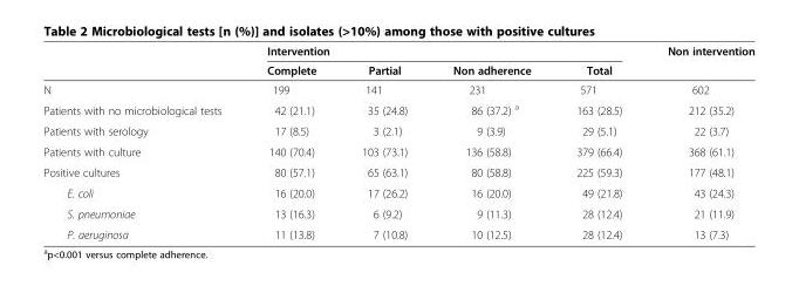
<table><thead><tr><td rowspan="2"></td><td colspan="4">Intervention</td><td rowspan="2">Non intervention</td></tr><tr><td>Complete</td><td>Partial</td><td>Non adherence</td><td>Total</td></tr></thead><tbody><tr><td>N</td><td>199</td><td>141</td><td>231</td><td>571</td><td>602</td></tr><tr><td>Patients with no microbiological tests</td><td>42 (21.1)</td><td>35 (24.8)</td><td>86 (37.2) <sup>a</sup></td><td>163 (28.5)</td><td>212 (35.2)</td></tr><tr><td>Patients with serology</td><td>17 (8.5)</td><td>3 (2.1)</td><td>9 (3.9)</td><td>29 (5.1)</td><td>22 (3.7)</td></tr><tr><td>Patients with culture</td><td>140 (70.4)</td><td>103 (73.1)</td><td>136 (58.8)</td><td>379 (66.4)</td><td>368 (61.1)</td></tr><tr><td>Positive cultures</td><td>80 (57.1)</td><td>65 (63.1)</td><td>80 (58.8)</td><td>225 (59.3)</td><td>177 (48.1)</td></tr><tr><td>E. coli</td><td>16 (20.0)</td><td>17 (26.2)</td><td>16 (20.0)</td><td>49 (21.8)</td><td>43 (24.3)</td></tr><tr><td>S. pneumoniae</td><td>13 (16.3)</td><td>6 (9.2)</td><td>9 (11.3)</td><td>28 (12.4)</td><td>21 (11.9)</td></tr><tr><td>P. aeruginosa</td><td>11 (13.8)</td><td>7 (10.8)</td><td>10 (12.5)</td><td>28 (12.4)</td><td>13 (7.3)</td></tr></tbody></table>